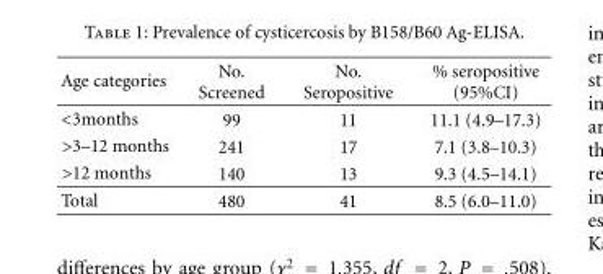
<table><thead><tr><td>Age categories</td><td>No. Screened</td><td>No. Seropositive</td><td>% seropositive (95%CI)</td></tr></thead><tbody><tr><td>&lt;3months</td><td>99</td><td>11</td><td>11.1 (4.9–17.3)</td></tr><tr><td>&gt;3–12 months</td><td>241</td><td>17</td><td>7.1 (3.8–10.3)</td></tr><tr><td>&gt;12 months</td><td>140</td><td>13</td><td>9.3 (4.5–14.1)</td></tr><tr><td>Total</td><td>480</td><td>41</td><td>8.5 (6.0–11.0)</td></tr></tbody></table>